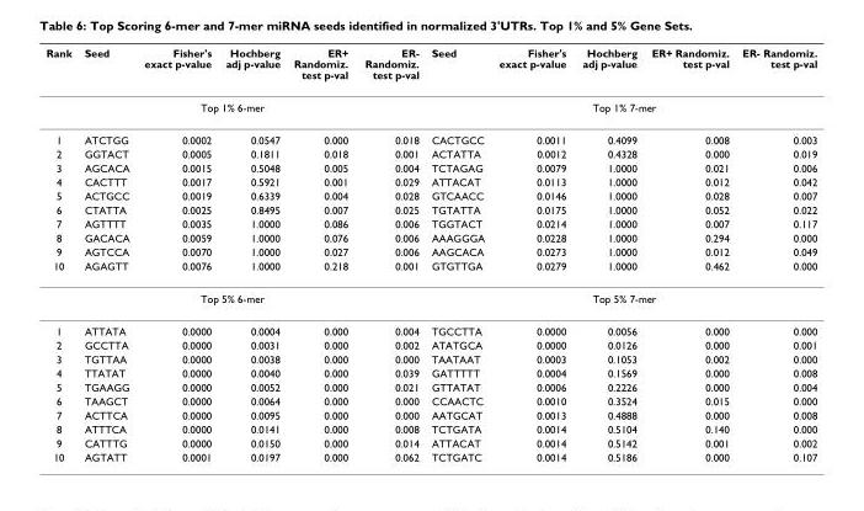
<table><thead><tr><td>Rank</td><td>Seed</td><td>Fisher&#x27;s exact p-value</td><td>Hochberg adj p-value</td><td>ER+ Randomiz. test p-val</td><td>ER- Randomiz. test p-val</td><td>Seed</td><td>Fisher&#x27;s exact p-value</td><td>Hochberg adj p-value</td><td>ER+ Randomiz. test p-val</td><td>ER- Randomiz. test p-val</td></tr></thead><tbody><tr><td colspan="6">Top 1% 6-mer</td><td colspan="5">Top 1% 7-mer</td></tr><tr><td>1</td><td>ATCTGG</td><td>0.0002</td><td>0.0547</td><td>0.000</td><td>0.018</td><td>CACTGCC</td><td>0.0011</td><td>0.4099</td><td>0.008</td><td>0.003</td></tr><tr><td>2</td><td>GGTACT</td><td>0.0005</td><td>0.1811</td><td>0.018</td><td>0.001</td><td>ACTATTA</td><td>0.0012</td><td>0.4328</td><td>0.000</td><td>0.019</td></tr><tr><td>3</td><td>AGCACA</td><td>0.0015</td><td>0.5048</td><td>0.005</td><td>0.004</td><td>TCTAGAG</td><td>0.0079</td><td>1.0000</td><td>0.021</td><td>0.006</td></tr><tr><td>4</td><td>CACTTT</td><td>0.0017</td><td>0.5921</td><td>0.001</td><td>0.029</td><td>ATTACAT</td><td>0.0113</td><td>1.0000</td><td>0.012</td><td>0.042</td></tr><tr><td>5</td><td>ACTGCC</td><td>0.0019</td><td>0.6339</td><td>0.004</td><td>0.028</td><td>GTCAACC</td><td>0.0146</td><td>1.0000</td><td>0.028</td><td>0.007</td></tr><tr><td>6</td><td>CTATTA</td><td>0.0025</td><td>0.8495</td><td>0.007</td><td>0.025</td><td>TGTATTA</td><td>0.0175</td><td>1.0000</td><td>0.052</td><td>0.022</td></tr><tr><td>7</td><td>AGTTTT</td><td>0.0035</td><td>1.0000</td><td>0.086</td><td>0.006</td><td>TGGTACT</td><td>0.0214</td><td>1.0000</td><td>0.007</td><td>0.117</td></tr><tr><td>8</td><td>GACACA</td><td>0.0059</td><td>1.0000</td><td>0.076</td><td>0.006</td><td>AAAGGGA</td><td>0.0228</td><td>1.0000</td><td>0.294</td><td>0.000</td></tr><tr><td>9</td><td>AGTCCA</td><td>0.0070</td><td>1.0000</td><td>0.027</td><td>0.006</td><td>AAGCACA</td><td>0.0273</td><td>1.0000</td><td>0.012</td><td>0.049</td></tr><tr><td>10</td><td>AGAGTT</td><td>0.0076</td><td>1.0000</td><td>0.218</td><td>0.001</td><td>GTGTTGA</td><td>0.0279</td><td>1.0000</td><td>0.462</td><td>0.000</td></tr><tr><td colspan="6">Top 5% 6-mer</td><td colspan="5">Top 5% 7-mer</td></tr><tr><td>1</td><td>ATTATA</td><td>0.0000</td><td>0.0004</td><td>0.000</td><td>0.004</td><td>TGCCTTA</td><td>0.0000</td><td>0.0056</td><td>0.000</td><td>0.000</td></tr><tr><td>2</td><td>GCCTTA</td><td>0.0000</td><td>0.0031</td><td>0.000</td><td>0.002</td><td>ATATGCA</td><td>0.0000</td><td>0.0126</td><td>0.000</td><td>0.001</td></tr><tr><td>3</td><td>TGTTAA</td><td>0.0000</td><td>0.0038</td><td>0.000</td><td>0.000</td><td>TAATAAT</td><td>0.0003</td><td>0.1053</td><td>0.002</td><td>0.000</td></tr><tr><td>4</td><td>TTATAT</td><td>0.0000</td><td>0.0040</td><td>0.000</td><td>0.039</td><td>GATTTTT</td><td>0.0004</td><td>0.1569</td><td>0.000</td><td>0.008</td></tr><tr><td>5</td><td>TGAAGG</td><td>0.0000</td><td>0.0052</td><td>0.000</td><td>0.021</td><td>GTTATAT</td><td>0.0006</td><td>0.2226</td><td>0.000</td><td>0.004</td></tr><tr><td>6</td><td>TAAGCT</td><td>0.0000</td><td>0.0064</td><td>0.000</td><td>0.000</td><td>CCAACTC</td><td>0.0010</td><td>0.3524</td><td>0.015</td><td>0.000</td></tr><tr><td>7</td><td>ACTTCA</td><td>0.0000</td><td>0.0095</td><td>0.000</td><td>0.000</td><td>AATGCAT</td><td>0.0013</td><td>0.4888</td><td>0.000</td><td>0.008</td></tr><tr><td>8</td><td>ATTTCA</td><td>0.0000</td><td>0.0141</td><td>0.000</td><td>0.008</td><td>TCTGATA</td><td>0.0014</td><td>0.5104</td><td>0.140</td><td>0.000</td></tr><tr><td>9</td><td>CATTTG</td><td>0.0000</td><td>0.0150</td><td>0.000</td><td>0.014</td><td>ATTACAT</td><td>0.0014</td><td>0.5142</td><td>0.001</td><td>0.002</td></tr><tr><td>10</td><td>AGTATT</td><td>0.0001</td><td>0.0197</td><td>0.000</td><td>0.062</td><td>TCTGATC</td><td>0.0014</td><td>0.5186</td><td>0.000</td><td>0.107</td></tr></tbody></table>